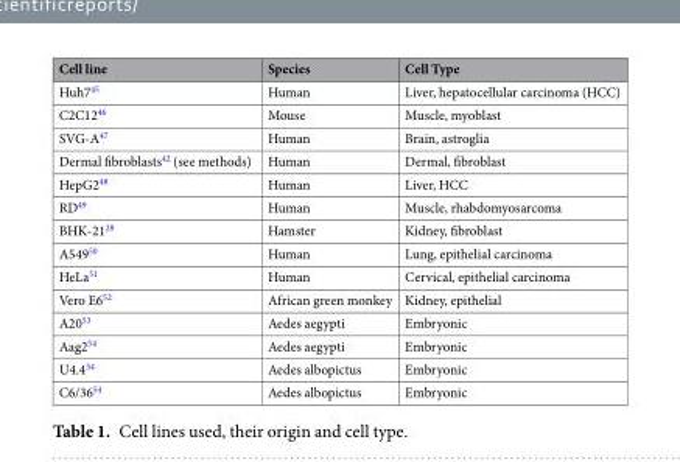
<table><thead><tr><td>Cell line</td><td>Species</td><td>Cell Type</td></tr></thead><tbody><tr><td>Huh7<sup>45</sup></td><td>Human</td><td>Liver, hepatocellular carcinoma (HCC)</td></tr><tr><td>C2C12<sup>46</sup></td><td>Mouse</td><td>Muscle, myoblast</td></tr><tr><td>SVG-A<sup>47</sup></td><td>Human</td><td>Brain, astroglia</td></tr><tr><td>Dermal fibroblasts<sup>42</sup> (see methods)</td><td>Human</td><td>Dermal, fibroblast</td></tr><tr><td>HepG2<sup>48</sup></td><td>Human</td><td>Liver, HCC</td></tr><tr><td>RD<sup>49</sup></td><td>Human</td><td>Muscle, rhabdomyosarcoma</td></tr><tr><td>BHK-21<sup>28</sup></td><td>Hamster</td><td>Kidney, fibroblast</td></tr><tr><td>A549<sup>50</sup></td><td>Human</td><td>Lung, epithelial carcinoma</td></tr><tr><td>HeLa<sup>51</sup></td><td>Human</td><td>Cervical, epithelial carcinoma</td></tr><tr><td>Vero E6<sup>52</sup></td><td>African green monkey</td><td>Kidney, epithelial</td></tr><tr><td>A20<sup>53</sup></td><td>Aedes aegypti</td><td>Embryonic</td></tr><tr><td>Aag2<sup>54</sup></td><td>Aedes aegypti</td><td>Embryonic</td></tr><tr><td>U4.4<sup>54</sup></td><td>Aedes albopictus</td><td>Embryonic</td></tr><tr><td>C6/36<sup>54</sup></td><td>Aedes albopictus</td><td>Embryonic</td></tr></tbody></table>